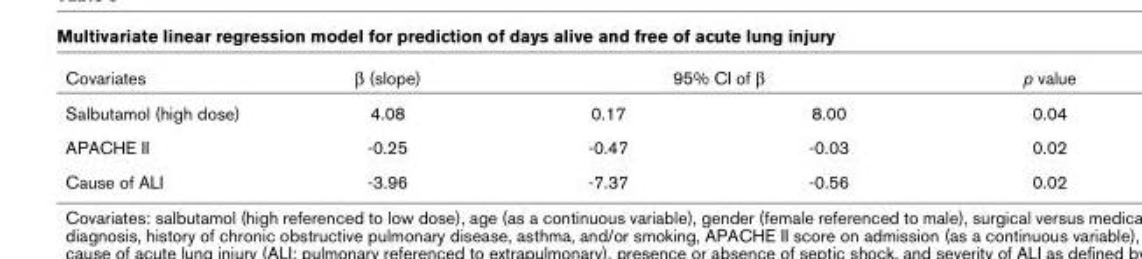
<table><thead><tr><td rowspan="2">Covariates Salbutamol (high dose)</td><td rowspan="2">β (slope) 4.08</td><td colspan="2">95% CI of β</td><td rowspan="2">p value 0.04</td></tr><tr><td>0.17</td><td>8.00</td></tr></thead><tbody><tr><td>APACHE II</td><td>-0.25</td><td>-0.47</td><td>-0.03</td><td>0.02</td></tr><tr><td>Cause of ALI</td><td>-3.96</td><td>-7.37</td><td>-0.56</td><td>0.02</td></tr></tbody></table>